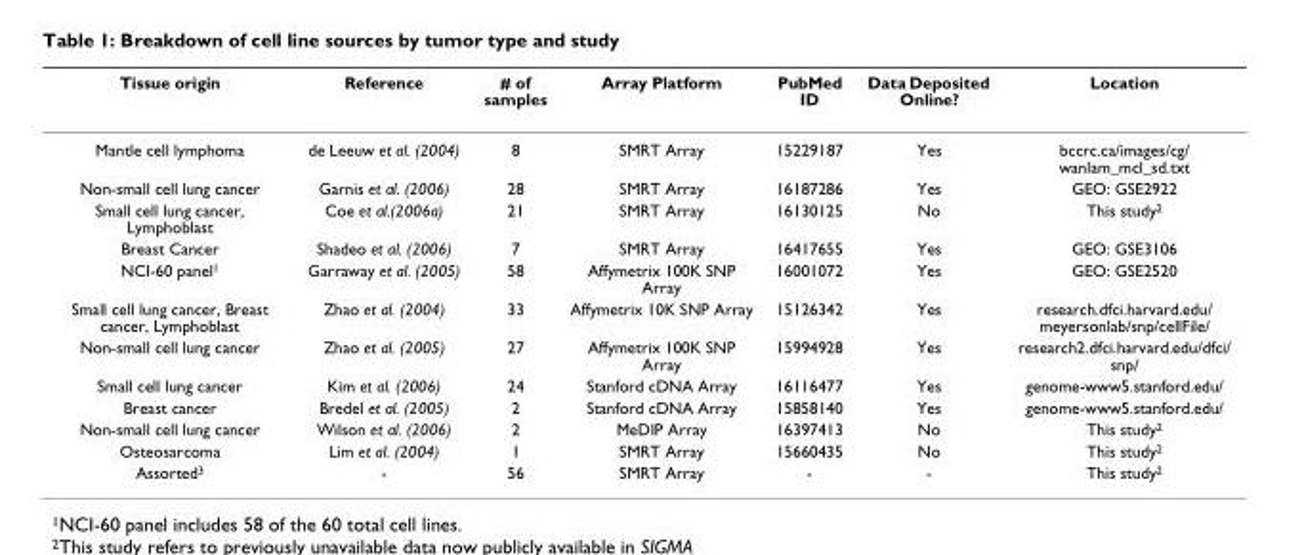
<table><thead><tr><td>Tissue origin</td><td>Reference</td><td># of samples</td><td>Array Platform</td><td>PubMed ID</td><td>Data Deposited Online?</td><td>Location</td></tr></thead><tbody><tr><td>Mantle cell lymphoma</td><td>de Leeuw et al. (2004)</td><td>8</td><td>SMRT Array</td><td>15229187</td><td>Yes</td><td>bccrc.ca/images/cg/ wanlam_mcl_sd.txt</td></tr><tr><td>Non-small cell lung cancer</td><td>Garnis et al. (2006)</td><td>28</td><td>SMRT Array</td><td>16187286</td><td>Yes</td><td>GEO: GSE2922</td></tr><tr><td>Small cell lung cancer, Lymphoblast</td><td>Coe et al.(2006a)</td><td>21</td><td>SMRT Array</td><td>16130125</td><td>No</td><td>This study2</td></tr><tr><td>Breast Cancer</td><td>Shadeo et al. (2006)</td><td>7</td><td>SMRT Array</td><td>16417655</td><td>Yes</td><td>GEO: GSE3106</td></tr><tr><td>NCI-60 panel1</td><td>Garraway et al. (2005)</td><td>58</td><td>Affymetrix 100K SNP Array</td><td>16001072</td><td>Yes</td><td>GEO: GSE2520</td></tr><tr><td>Small cell lung cancer, Breast cancer, Lymphoblast</td><td>Zhao et al. (2004)</td><td>33</td><td>Affymetrix 10K SNP Array</td><td>15126342</td><td>Yes</td><td>research.dfci.harvard.edu/ meyersonlab/snp/cellFile/</td></tr><tr><td>Non-small cell lung cancer</td><td>Zhao et al. (2005)</td><td>27</td><td>Affymetrix 100K SNP Array</td><td>15994928</td><td>Yes</td><td>research2.dfci.harvard.edu/dfci/ snp/</td></tr><tr><td>Small cell lung cancer</td><td>Kim et al. (2006)</td><td>24</td><td>Stanford cDNA Array</td><td>16116477</td><td>Yes</td><td>genome-www5.stanford.edu/</td></tr><tr><td>Breast cancer</td><td>Bredel et al. (2005)</td><td>2</td><td>Stanford cDNA Array</td><td>15858140</td><td>Yes</td><td>genome-www5.stanford.edu/</td></tr><tr><td>Non-small cell lung cancer</td><td>Wilson et al. (2006)</td><td>2</td><td>MeDIP Array</td><td>16397413</td><td>No</td><td>This study2</td></tr><tr><td>Osteosarcoma</td><td>Lim et al. (2004)</td><td>1</td><td>SMRT Array</td><td>15660435</td><td>No</td><td>This study2</td></tr><tr><td>Assorted3</td><td>-</td><td>56</td><td>SMRT Array</td><td>-</td><td>-</td><td>This study2</td></tr></tbody></table>